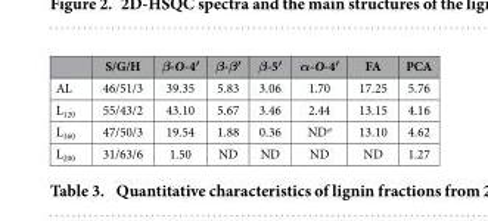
<table><thead><tr><td></td><td>S/G/H</td><td>β-O-4′</td><td>β-β′</td><td>β-5′</td><td>α-O-4′</td><td>FA</td><td>PCA</td></tr></thead><tbody><tr><td>AL</td><td>46/51/3</td><td>39.35</td><td>5.83</td><td>3.06</td><td>1.70</td><td>17.25</td><td>5.76</td></tr><tr><td>L<sub>120</sub></td><td>55/43/2</td><td>43.10</td><td>5.67</td><td>3.46</td><td>2.44</td><td>13.15</td><td>4.16</td></tr><tr><td>L<sub>160</sub></td><td>47/50/3</td><td>19.54</td><td>1.88</td><td>0.36</td><td>ND<sup>a</sup></td><td>13.10</td><td>4.62</td></tr><tr><td>L<sub>200</sub></td><td>31/63/6</td><td>1.50</td><td>ND</td><td>ND</td><td>ND</td><td>ND</td><td>1.27</td></tr></tbody></table>